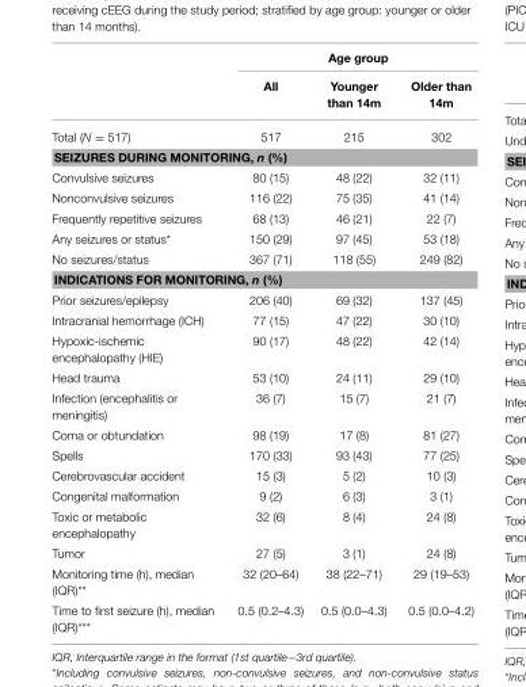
<table><thead><tr><td rowspan="2"></td><td colspan="3">Age group</td></tr><tr><td>All</td><td>Younger than 14m</td><td>Older than 14m</td></tr></thead><tbody><tr><td>Total (N = 517)</td><td>517</td><td>215</td><td>302</td></tr><tr><td colspan="4">SEIZURES DURING MONITORING, n (%)</td></tr><tr><td>Convulsive seizures</td><td>80 (15)</td><td>48 (22)</td><td>32 (11)</td></tr><tr><td>Nonconvulsive seizures</td><td>116 (22)</td><td>75 (35)</td><td>41 (14)</td></tr><tr><td>Frequently repetitive seizures</td><td>68 (13)</td><td>46 (21)</td><td>22 (7)</td></tr><tr><td>Any seizures or status*</td><td>150 (29)</td><td>97 (45)</td><td>53 (18)</td></tr><tr><td>No seizures/status</td><td>367 (71)</td><td>118 (55)</td><td>249 (82)</td></tr><tr><td colspan="4">INDICATIONS FOR MONITORING, n (%)</td></tr><tr><td>Prior seizures/epilepsy</td><td>206 (40)</td><td>69 (32)</td><td>137 (45)</td></tr><tr><td>Intracranial hemorrhage (ICH)</td><td>77 (15)</td><td>47 (22)</td><td>30 (10)</td></tr><tr><td>Hypoxic-ischemic encephalopathy (HIE)</td><td>90 (17)</td><td>48 (22)</td><td>42 (14)</td></tr><tr><td>Head trauma</td><td>53 (10)</td><td>24 (11)</td><td>29 (10)</td></tr><tr><td>Infection (encephalitis or meningitis)</td><td>36 (7)</td><td>15 (7)</td><td>21 (7)</td></tr><tr><td>Coma or obtundation</td><td>98 (19)</td><td>17 (8)</td><td>81 (27)</td></tr><tr><td>Spells</td><td>170 (33)</td><td>93 (43)</td><td>77 (25)</td></tr><tr><td>Cerebrovascular accident</td><td>15 (3)</td><td>5 (2)</td><td>10 (3)</td></tr><tr><td>Congenital malformation</td><td>9 (2)</td><td>6 (3)</td><td>3 (1)</td></tr><tr><td>Toxic or metabolic encephalopathy</td><td>32 (6)</td><td>8 (4)</td><td>24 (8)</td></tr><tr><td>Tumor</td><td>27 (5)</td><td>3 (1)</td><td>24 (8)</td></tr><tr><td>Monitoring time (h), median (IQR)**</td><td>32 (20–64)</td><td>38 (22–71)</td><td>29 (19–53)</td></tr><tr><td>Time to first seizure (h), median (IQR)***</td><td>0.5 (0.2–4.3)</td><td>0.5 (0.0–4.3)</td><td>0.5 (0.0–4.2)</td></tr></tbody></table>